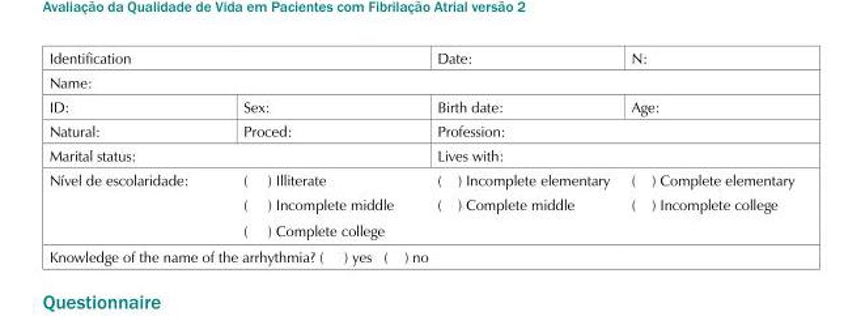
<table><tbody><tr><td colspan="2">Identification</td><td>Date:</td><td>N:</td></tr><tr><td colspan="4">Name:</td></tr><tr><td>ID:</td><td>Sex:</td><td>Birth date:</td><td>Age:</td></tr><tr><td>Natural:</td><td>Proced:</td><td colspan="2">Profession:</td></tr><tr><td colspan="2">Marital status:</td><td colspan="2">Lives with:</td></tr><tr><td rowspan="3">Nível de escolaridade:</td><td>( ) Illiterate</td><td>( ) Incomplete elementary</td><td>( ) Complete elementary</td></tr><tr><td>( ) Incomplete middle</td><td>( ) Complete middle</td><td>( ) Incomplete college</td></tr><tr><td>( ) Complete college</td><td></td><td></td></tr><tr><td colspan="4">Knowledge of the name of the arrhythmia? ( ) yes ( ) no</td></tr></tbody></table>